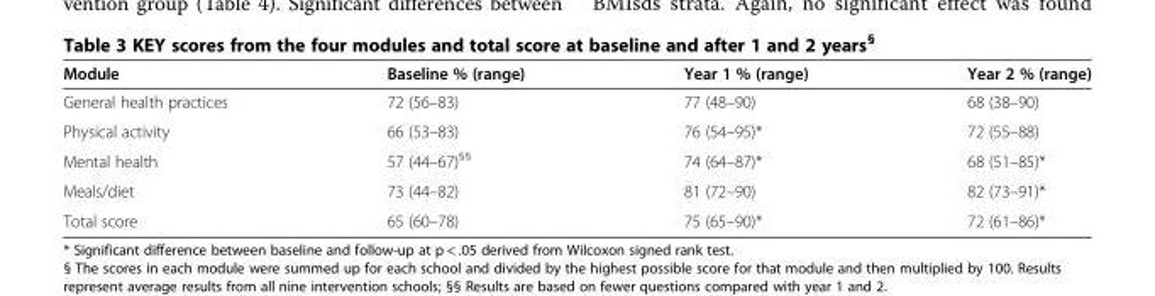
<table><thead><tr><td>Module</td><td>Baseline % (range)</td><td>Year 1 % (range)</td><td>Year 2 % (range)</td></tr></thead><tbody><tr><td>General health practices</td><td>72 (56–83)</td><td>77 (48–90)</td><td>68 (38–90)</td></tr><tr><td>Physical activity</td><td>66 (53–83)</td><td>76 (54–95)*</td><td>72 (55–88)</td></tr><tr><td>Mental health</td><td>57 (44–67)<sup>§§</sup></td><td>74 (64–87)*</td><td>68 (51–85)*</td></tr><tr><td>Meals/diet</td><td>73 (44–82)</td><td>81 (72–90)</td><td>82 (73–91)*</td></tr><tr><td>Total score</td><td>65 (60–78)</td><td>75 (65–90)*</td><td>72 (61–86)*</td></tr></tbody></table>